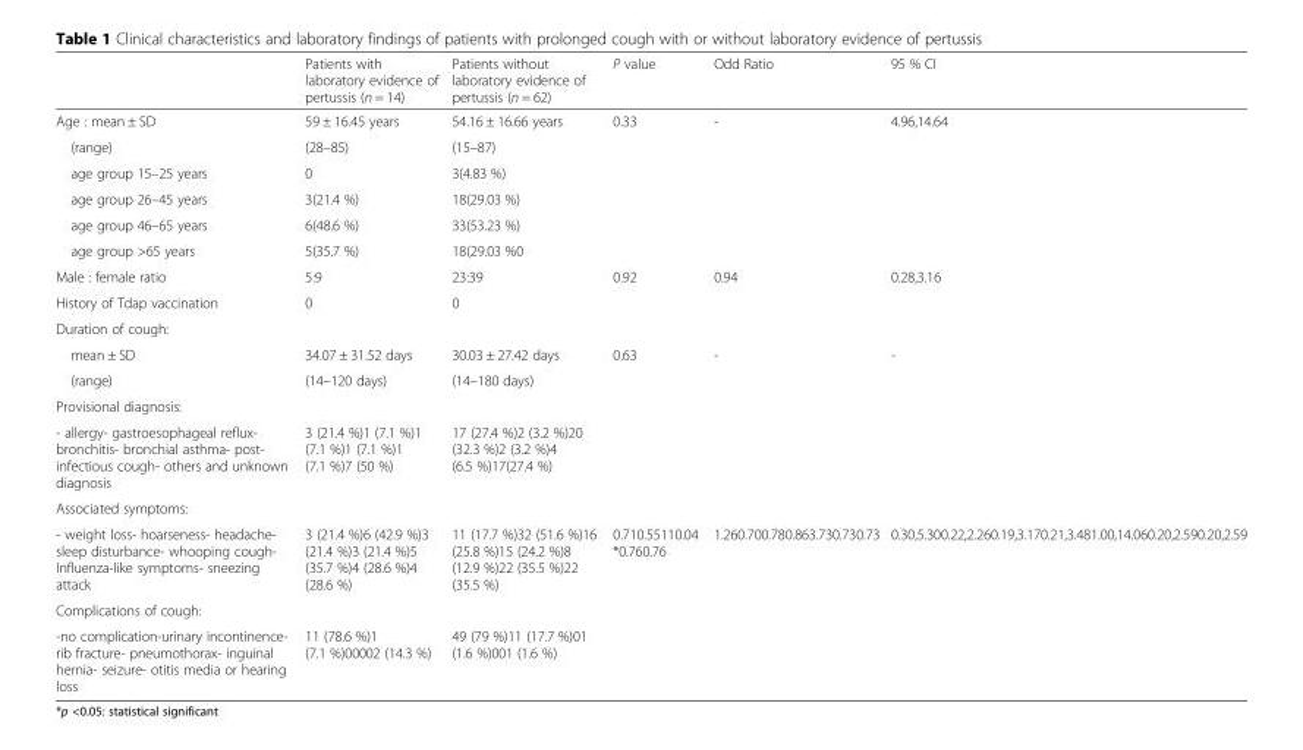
<table><thead><tr><td></td><td>Patients with laboratory evidence of pertussis (n = 14)</td><td>Patients without laboratory evidence of pertussis (n = 62)</td><td>P value</td><td>Odd Ratio</td><td>95 % CI</td></tr></thead><tbody><tr><td>Age : mean ± SD</td><td>59 ± 16.45 years</td><td>54.16 ± 16.66 years</td><td rowspan="6">0.33</td><td rowspan="6">-</td><td rowspan="6">4.96,14.64</td></tr><tr><td>(range)</td><td>(28–85)</td><td>(15–87)</td></tr><tr><td>age group 15–25 years</td><td>0</td><td>3(4.83 %)</td></tr><tr><td>age group 26–45 years</td><td>3(21.4 %)</td><td>18(29.03 %)</td></tr><tr><td>age group 46–65 years</td><td>6(48.6 %)</td><td>33(53.23 %)</td></tr><tr><td>age group &gt;65 years</td><td>5(35.7 %)</td><td>18(29.03 %0</td></tr><tr><td>Male : female ratio</td><td>5:9</td><td>23:39</td><td>0.92</td><td>0.94</td><td>0.28,3.16</td></tr><tr><td>History of Tdap vaccination</td><td>0</td><td>0</td><td></td><td></td><td></td></tr><tr><td colspan="6">Duration of cough:</td></tr><tr><td>mean ± SD</td><td>34.07 ± 31.52 days</td><td>30.03 ± 27.42 days</td><td rowspan="2">0.63</td><td rowspan="2">-</td><td rowspan="2">-</td></tr><tr><td>(range)</td><td>(14–120 days)</td><td>(14–180 days)</td></tr><tr><td colspan="6">Provisional diagnosis:</td></tr><tr><td>- allergy- gastroesophageal reflux- bronchitis- bronchial asthma- post- infectious cough- others and unknown diagnosis</td><td>3 (21.4 %)1 (7.1 %)1 (7.1 %)1 (7.1 %)1 (7.1 %)7 (50 %)</td><td>17 (27.4 %)2 (3.2 %)20 (32.3 %)2 (3.2 %)4 (6.5 %)17(27.4 %)</td><td></td><td></td><td></td></tr><tr><td colspan="6">Associated symptoms:</td></tr><tr><td>- weight loss- hoarseness- headache- sleep disturbance- whooping cough- Influenza-like symptoms- sneezing attack</td><td>3 (21.4 %)6 (42.9 %)3 (21.4 %)3 (21.4 %)5 (35.7 %)4 (28.6 %)4 (28.6 %)</td><td>11 (17.7 %)32 (51.6 %)16 (25.8 %)15 (24.2 %)8 (12.9 %)22 (35.5 %)22 (35.5 %)</td><td>0.710.55110.04 *0.760.76</td><td>1.260.700.780.863.730.730.73</td><td>0.30,5.300.22,2.260.19,3.170.21,3.481.00,14.060.20,2.590.20,2.59</td></tr><tr><td colspan="6">Complications of cough:</td></tr><tr><td>-no complication-urinary incontinence- rib fracture- pneumothorax- inguinal hernia- seizure- otitis media or hearing loss</td><td>11 (78.6 %)1 (7.1 %)00002 (14.3 %)</td><td>49 (79 %)11 (17.7 %)01 (1.6 %)001 (1.6 %)</td><td></td><td></td><td></td></tr></tbody></table>